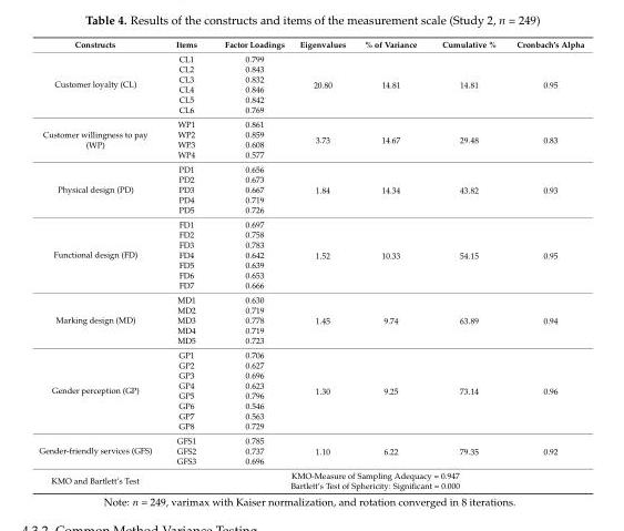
<table><thead><tr><td>Constructs</td><td>Items</td><td>Factor Loadings</td><td>Eigenvalues</td><td>% of Variance</td><td>Cumulative %</td><td>Cronbach’s Alpha</td></tr></thead><tbody><tr><td rowspan="6">Customer loyalty (CL)</td><td>CL1</td><td>0.799</td><td rowspan="6">20.80</td><td rowspan="6">14.81</td><td rowspan="6">14.81</td><td rowspan="6">0.95</td></tr><tr><td>CL2</td><td>0.843</td></tr><tr><td>CL3</td><td>0.832</td></tr><tr><td>CL4</td><td>0.846</td></tr><tr><td>CL5</td><td>0.842</td></tr><tr><td>CL6</td><td>0.769</td></tr><tr><td rowspan="4">Customer willingness to pay (WP)</td><td>WP1</td><td>0.861</td><td rowspan="4">3.73</td><td rowspan="4">14.67</td><td rowspan="4">29.48</td><td rowspan="4">0.83</td></tr><tr><td>WP2</td><td>0.859</td></tr><tr><td>WP3</td><td>0.608</td></tr><tr><td>WP4</td><td>0.577</td></tr><tr><td rowspan="5">Physical design (PD)</td><td>PD1</td><td>0.656</td><td rowspan="5">1.84</td><td rowspan="5">14.34</td><td rowspan="5">43.82</td><td rowspan="5">0.93</td></tr><tr><td>PD2</td><td>0.673</td></tr><tr><td>PD3</td><td>0.667</td></tr><tr><td>PD4</td><td>0.719</td></tr><tr><td>PD5</td><td>0.726</td></tr><tr><td rowspan="7">Functional design (FD)</td><td>FD1</td><td>0.697</td><td rowspan="7">1.52</td><td rowspan="7">10.33</td><td rowspan="7">54.15</td><td rowspan="7">0.95</td></tr><tr><td>FD2</td><td>0.758</td></tr><tr><td>FD3</td><td>0.783</td></tr><tr><td>FD4</td><td>0.642</td></tr><tr><td>FD5</td><td>0.639</td></tr><tr><td>FD6</td><td>0.653</td></tr><tr><td>FD7</td><td>0.666</td></tr><tr><td rowspan="5">Marking design (MD)</td><td>MD1</td><td>0.630</td><td rowspan="5">1.45</td><td rowspan="5">9.74</td><td rowspan="5">63.89</td><td rowspan="5">0.94</td></tr><tr><td>MD2</td><td>0.719</td></tr><tr><td>MD3</td><td>0.778</td></tr><tr><td>MD4</td><td>0.719</td></tr><tr><td>MD5</td><td>0.723</td></tr><tr><td rowspan="8">Gender perception (GP)</td><td>GP1</td><td>0.706</td><td rowspan="8">1.30</td><td rowspan="8">9.25</td><td rowspan="8">73.14</td><td rowspan="8">0.96</td></tr><tr><td>GP2</td><td>0.627</td></tr><tr><td>GP3</td><td>0.696</td></tr><tr><td>GP4</td><td>0.623</td></tr><tr><td>GP5</td><td>0.796</td></tr><tr><td>GP6</td><td>0.546</td></tr><tr><td>GP7</td><td>0.563</td></tr><tr><td>GP8</td><td>0.729</td></tr><tr><td rowspan="3">Gender-friendly services (GFS)</td><td>GFS1</td><td>0.785</td><td rowspan="3">1.10</td><td rowspan="3">6.22</td><td rowspan="3">79.35</td><td rowspan="3">0.92</td></tr><tr><td>GFS2</td><td>0.737</td></tr><tr><td>GFS3</td><td>0.696</td></tr><tr><td>KMO and Bartlett’s Test</td><td colspan="6">KMO-Measure of Sampling Adequacy = 0.947 Bartlett’s Test of Sphericity: Significant = 0.000</td></tr></tbody></table>